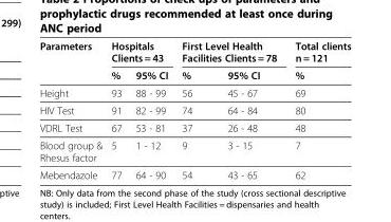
<table><thead><tr><td rowspan="2">Parameters</td><td colspan="2">Hospitals Clients = 43</td><td colspan="2">First Level Health Facilities Clients = 78</td><td rowspan="2">Total clients n = 121 %</td></tr><tr><td>%</td><td>95% CI</td><td>%</td><td>95% CI</td></tr></thead><tbody><tr><td>Height</td><td>93</td><td>88 - 99</td><td>56</td><td>45 - 67</td><td>69</td></tr><tr><td>HIV Test</td><td>91</td><td>82 - 99</td><td>74</td><td>64 - 84</td><td>80</td></tr><tr><td>VDRL Test</td><td>67</td><td>53 - 81</td><td>37</td><td>26 - 48</td><td>48</td></tr><tr><td>Blood group &amp; Rhesus factor</td><td>5</td><td>1 - 12</td><td>9</td><td>3 - 15</td><td>7</td></tr><tr><td>Mebendazole</td><td>77</td><td>64 - 90</td><td>54</td><td>43 - 65</td><td>62</td></tr></tbody></table>